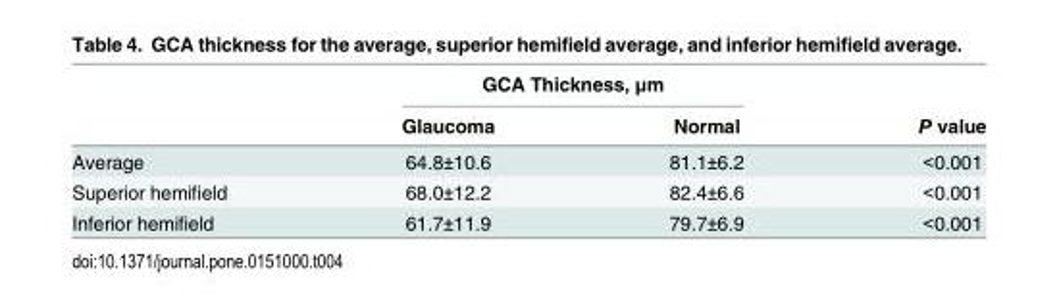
<table><thead><tr><td rowspan="2"></td><td colspan="2">GCA Thickness, μm</td><td rowspan="2">P value</td></tr><tr><td>Glaucoma</td><td>Normal</td></tr></thead><tbody><tr><td>Average</td><td>64.8±10.6</td><td>81.1±6.2</td><td>&lt;0.001</td></tr><tr><td>Superior hemifield</td><td>68.0±12.2</td><td>82.4±6.6</td><td>&lt;0.001</td></tr><tr><td>Inferior hemifield</td><td>61.7±11.9</td><td>79.7±6.9</td><td>&lt;0.001</td></tr></tbody></table>